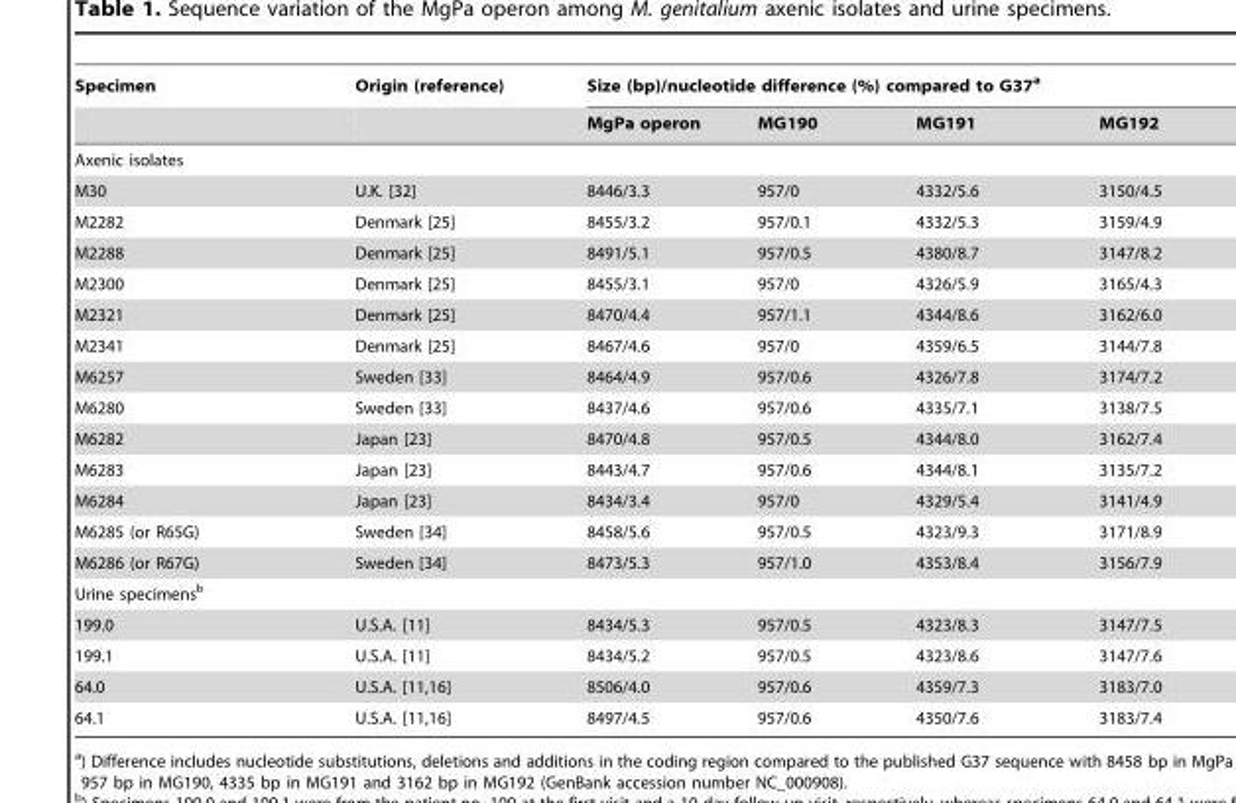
<table><thead><tr><td rowspan="2">Specimen</td><td rowspan="2">Origin (reference)</td><td colspan="4">Size (bp)/nucleotide difference (%) compared to G37<sup>a</sup></td></tr><tr><td>MgPa operon</td><td>MG190</td><td>MG191</td><td>MG192</td></tr></thead><tbody><tr><td colspan="6">Axenic isolates</td></tr><tr><td>M30</td><td>U.K. [32]</td><td>8446/3.3</td><td>957/0</td><td>4332/5.6</td><td>3150/4.5</td></tr><tr><td>M2282</td><td>Denmark [25]</td><td>8455/3.2</td><td>957/0.1</td><td>4332/5.3</td><td>3159/4.9</td></tr><tr><td>M2288</td><td>Denmark [25]</td><td>8491/5.1</td><td>957/0.5</td><td>4380/8.7</td><td>3147/8.2</td></tr><tr><td>M2300</td><td>Denmark [25]</td><td>8455/3.1</td><td>957/0</td><td>4326/5.9</td><td>3165/4.3</td></tr><tr><td>M2321</td><td>Denmark [25]</td><td>8470/4.4</td><td>957/1.1</td><td>4344/8.6</td><td>3162/6.0</td></tr><tr><td>M2341</td><td>Denmark [25]</td><td>8467/4.6</td><td>957/0</td><td>4359/6.5</td><td>3144/7.8</td></tr><tr><td>M6257</td><td>Sweden [33]</td><td>8464/4.9</td><td>957/0.6</td><td>4326/7.8</td><td>3174/7.2</td></tr><tr><td>M6280</td><td>Sweden [33]</td><td>8437/4.6</td><td>957/0.6</td><td>4335/7.1</td><td>3138/7.5</td></tr><tr><td>M6282</td><td>Japan [23]</td><td>8470/4.8</td><td>957/0.5</td><td>4344/8.0</td><td>3162/7.4</td></tr><tr><td>M6283</td><td>Japan [23]</td><td>8443/4.7</td><td>957/0.6</td><td>4344/8.1</td><td>3135/7.2</td></tr><tr><td>M6284</td><td>Japan [23]</td><td>8434/3.4</td><td>957/0</td><td>4329/5.4</td><td>3141/4.9</td></tr><tr><td>M6285 (or R65G)</td><td>Sweden [34]</td><td>8458/5.6</td><td>957/0.5</td><td>4323/9.3</td><td>3171/8.9</td></tr><tr><td>M6286 (or R67G)</td><td>Sweden [34]</td><td>8473/5.3</td><td>957/1.0</td><td>4353/8.4</td><td>3156/7.9</td></tr><tr><td colspan="6">Urine specimens<sup>b</sup></td></tr><tr><td>199.0</td><td>U.S.A. [11]</td><td>8434/5.3</td><td>957/0.5</td><td>4323/8.3</td><td>3147/7.5</td></tr><tr><td>199.1</td><td>U.S.A. [11]</td><td>8434/5.2</td><td>957/0.5</td><td>4323/8.6</td><td>3147/7.6</td></tr><tr><td>64.0</td><td>U.S.A. [11,16]</td><td>8506/4.0</td><td>957/0.6</td><td>4359/7.3</td><td>3183/7.0</td></tr><tr><td>64.1</td><td>U.S.A. [11,16]</td><td>8497/4.5</td><td>957/0.6</td><td>4350/7.6</td><td>3183/7.4</td></tr></tbody></table>